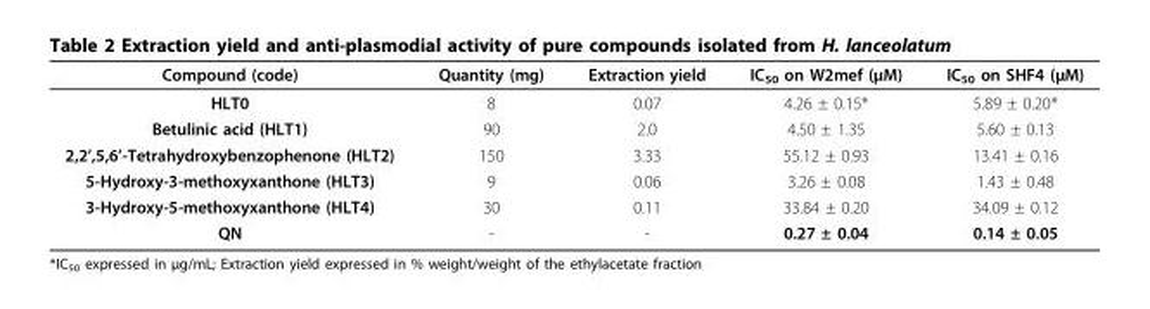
<table><thead><tr><td>Compound (code)</td><td>Quantity (mg)</td><td>Extraction yield</td><td>IC<sub>50</sub> on W2mef (μM)</td><td>IC<sub>50</sub> on SHF4 (μM)</td></tr></thead><tbody><tr><td>HLT0</td><td>8</td><td>0.07</td><td>4.26 ± 0.15*</td><td>5.89 ± 0.20*</td></tr><tr><td>Betulinic acid (HLT1)</td><td>90</td><td>2.0</td><td>4.50 ± 1.35</td><td>5.60 ± 0.13</td></tr><tr><td>2,2’,5,6’-Tetrahydroxybenzophenone (HLT2)</td><td>150</td><td>3.33</td><td>55.12 ± 0.93</td><td>13.41 ± 0.16</td></tr><tr><td>5-Hydroxy-3-methoxyxanthone (HLT3)</td><td>9</td><td>0.06</td><td>3.26 ± 0.08</td><td>1.43 ± 0.48</td></tr><tr><td>3-Hydroxy-5-methoxyxanthone (HLT4)</td><td>30</td><td>0.11</td><td>33.84 ± 0.20</td><td>34.09 ± 0.12</td></tr><tr><td>QN</td><td>-</td><td>-</td><td>0.27 ± 0.04</td><td>0.14 ± 0.05</td></tr></tbody></table>